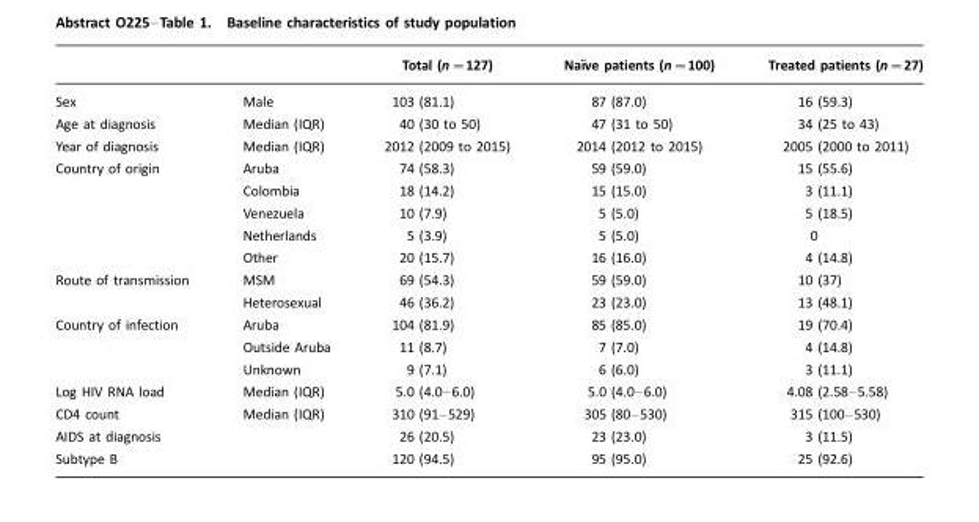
<table><thead><tr><td></td><td></td><td>Total (n=127)</td><td>Naı¨ve patients (n�100)</td><td>Treated patients (n=27)</td></tr></thead><tbody><tr><td>Sex</td><td>Male</td><td>103 (81.1)</td><td>87 (87.0)</td><td>16 (59.3)</td></tr><tr><td>Age at diagnosis</td><td>Median (IQR)</td><td>40 (30 to 50)</td><td>47 (31 to 50)</td><td>34 (25 to 43)</td></tr><tr><td>Year of diagnosis</td><td>Median (IQR)</td><td>2012 (2009 to 2015)</td><td>2014 (2012 to 2015)</td><td>2005 (2000 to 2011)</td></tr><tr><td rowspan="5">Country of origin</td><td>Aruba</td><td>74 (58.3)</td><td>59 (59.0)</td><td>15 (55.6)</td></tr><tr><td>Colombia</td><td>18 (14.2)</td><td>15 (15.0)</td><td>3 (11.1)</td></tr><tr><td>Venezuela</td><td>10 (7.9)</td><td>5 (5.0)</td><td>5 (18.5)</td></tr><tr><td>Netherlands</td><td>5 (3.9)</td><td>5 (5.0)</td><td>0</td></tr><tr><td>Other</td><td>20 (15.7)</td><td>16 (16.0)</td><td>4 (14.8)</td></tr><tr><td rowspan="2">Route of transmission</td><td>MSM</td><td>69 (54.3)</td><td>59 (59.0)</td><td>10 (37)</td></tr><tr><td>Heterosexual</td><td>46 (36.2)</td><td>23 (23.0)</td><td>13 (48.1)</td></tr><tr><td rowspan="3">Country of infection</td><td>Aruba</td><td>104 (81.9)</td><td>85 (85.0)</td><td>19 (70.4)</td></tr><tr><td>Outside Aruba</td><td>11 (8.7)</td><td>7 (7.0)</td><td>4 (14.8)</td></tr><tr><td>Unknown</td><td>9 (7.1)</td><td>6 (6.0)</td><td>3 (11.1)</td></tr><tr><td>Log HIV RNA load</td><td>Median (IQR)</td><td>5.0 (4.0–6.0)</td><td>5.0 (4.0–6.0)</td><td>4.08 (2.58–5.58)</td></tr><tr><td>CD4 count</td><td>Median (IQR)</td><td>310 (91–529)</td><td>305 (80–530)</td><td>315 (100–530)</td></tr><tr><td>AIDS at diagnosis</td><td></td><td>26 (20.5)</td><td>23 (23.0)</td><td>3 (11.5)</td></tr><tr><td>Subtype B</td><td></td><td>120 (94.5)</td><td>95 (95.0)</td><td>25 (92.6)</td></tr></tbody></table>